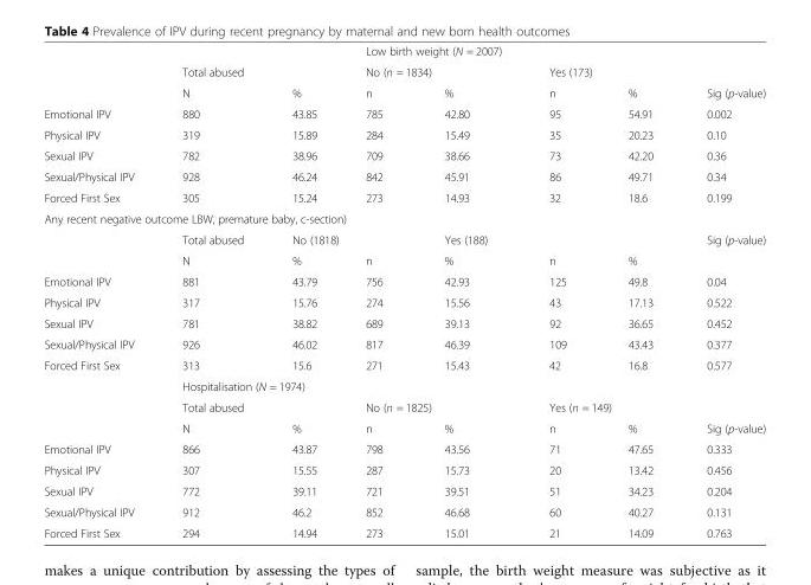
<table><thead><tr><td rowspan="3"></td><td></td><td></td><td colspan="3">Low birth weight (N = 2007)</td><td></td><td rowspan="3">Sig (p-value)</td></tr><tr><td colspan="2">Total abused</td><td colspan="2">No (n = 1834)</td><td colspan="2">Yes (173)</td></tr><tr><td>N</td><td>%</td><td>n</td><td>%</td><td>n</td><td>%</td></tr></thead><tbody><tr><td>Emotional IPV</td><td>880</td><td>43.85</td><td>785</td><td>42.80</td><td>95</td><td>54.91</td><td>0.002</td></tr><tr><td>Physical IPV</td><td>319</td><td>15.89</td><td>284</td><td>15.49</td><td>35</td><td>20.23</td><td>0.10</td></tr><tr><td>Sexual IPV</td><td>782</td><td>38.96</td><td>709</td><td>38.66</td><td>73</td><td>42.20</td><td>0.36</td></tr><tr><td>Sexual/Physical IPV</td><td>928</td><td>46.24</td><td>842</td><td>45.91</td><td>86</td><td>49.71</td><td>0.34</td></tr><tr><td>Forced First Sex</td><td>305</td><td>15.24</td><td>273</td><td>14.93</td><td>32</td><td>18.6</td><td>0.199</td></tr><tr><td colspan="8">Any recent negative outcome LBW, premature baby, c-section)</td></tr><tr><td></td><td>Total abused</td><td colspan="2">No (1818)</td><td>Yes (188)</td><td></td><td></td><td>Sig (p-value)</td></tr><tr><td></td><td>N</td><td>%</td><td>n</td><td>%</td><td>n</td><td>%</td><td></td></tr><tr><td>Emotional IPV</td><td>881</td><td>43.79</td><td>756</td><td>42.93</td><td>125</td><td>49.8</td><td>0.04</td></tr><tr><td>Physical IPV</td><td>317</td><td>15.76</td><td>274</td><td>15.56</td><td>43</td><td>17.13</td><td>0.522</td></tr><tr><td>Sexual IPV</td><td>781</td><td>38.82</td><td>689</td><td>39.13</td><td>92</td><td>36.65</td><td>0.452</td></tr><tr><td>Sexual/Physical IPV</td><td>926</td><td>46.02</td><td>817</td><td>46.39</td><td>109</td><td>43.43</td><td>0.377</td></tr><tr><td rowspan="4">Forced First Sex</td><td>313</td><td>15.6</td><td>271</td><td>15.43</td><td>42</td><td>16.8</td><td>0.577</td></tr><tr><td colspan="3">Hospitalisation (N = 1974)</td><td></td><td></td><td></td><td></td></tr><tr><td colspan="2">Total abused</td><td colspan="2">No (n = 1825)</td><td colspan="2">Yes (n = 149)</td><td></td></tr><tr><td>N</td><td>%</td><td>n</td><td>%</td><td>n</td><td>%</td><td>Sig (p-value)</td></tr><tr><td>Emotional IPV</td><td>866</td><td>43.87</td><td>798</td><td>43.56</td><td>71</td><td>47.65</td><td>0.333</td></tr><tr><td>Physical IPV</td><td>307</td><td>15.55</td><td>287</td><td>15.73</td><td>20</td><td>13.42</td><td>0.456</td></tr><tr><td>Sexual IPV</td><td>772</td><td>39.11</td><td>721</td><td>39.51</td><td>51</td><td>34.23</td><td>0.204</td></tr><tr><td>Sexual/Physical IPV</td><td>912</td><td>46.2</td><td>852</td><td>46.68</td><td>60</td><td>40.27</td><td>0.131</td></tr><tr><td>Forced First Sex</td><td>294</td><td>14.94</td><td>273</td><td>15.01</td><td>21</td><td>14.09</td><td>0.763</td></tr></tbody></table>